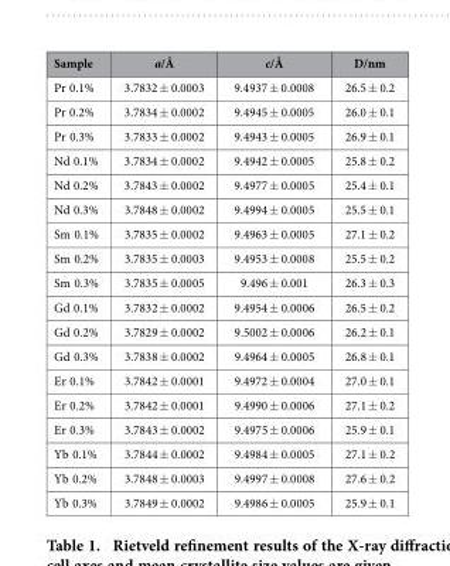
<table><thead><tr><td>Sample</td><td>a/Å</td><td>c/Å</td><td>D/nm</td></tr></thead><tbody><tr><td>Pr 0.1%</td><td>3.7832 ± 0.0003</td><td>9.4937 ± 0.0008</td><td>26.5 ± 0.2</td></tr><tr><td>Pr 0.2%</td><td>3.7834 ± 0.0002</td><td>9.4945 ± 0.0005</td><td>26.0 ± 0.1</td></tr><tr><td>Pr 0.3%</td><td>3.7833 ± 0.0002</td><td>9.4943 ± 0.0005</td><td>26.9 ± 0.1</td></tr><tr><td>Nd 0.1%</td><td>3.7834 ± 0.0002</td><td>9.4942 ± 0.0005</td><td>25.8 ± 0.2</td></tr><tr><td>Nd 0.2%</td><td>3.7843 ± 0.0002</td><td>9.4977 ± 0.0005</td><td>25.4 ± 0.1</td></tr><tr><td>Nd 0.3%</td><td>3.7848 ± 0.0002</td><td>9.4994 ± 0.0005</td><td>25.5 ± 0.1</td></tr><tr><td>Sm 0.1%</td><td>3.7835 ± 0.0002</td><td>9.4963 ± 0.0005</td><td>27.1 ± 0.2</td></tr><tr><td>Sm 0.2%</td><td>3.7835 ± 0.0003</td><td>9.4953 ± 0.0008</td><td>25.5 ± 0.2</td></tr><tr><td>Sm 0.3%</td><td>3.7835 ± 0.0005</td><td>9.496 ± 0.001</td><td>26.3 ± 0.3</td></tr><tr><td>Gd 0.1%</td><td>3.7832 ± 0.0002</td><td>9.4954 ± 0.0006</td><td>26.5 ± 0.2</td></tr><tr><td>Gd 0.2%</td><td>3.7829 ± 0.0002</td><td>9.5002 ± 0.0006</td><td>26.2 ± 0.1</td></tr><tr><td>Gd 0.3%</td><td>3.7838 ± 0.0002</td><td>9.4964 ± 0.0005</td><td>26.8 ± 0.1</td></tr><tr><td>Er 0.1%</td><td>3.7842 ± 0.0001</td><td>9.4972 ± 0.0004</td><td>27.0 ± 0.1</td></tr><tr><td>Er 0.2%</td><td>3.7842 ± 0.0001</td><td>9.4990 ± 0.0006</td><td>27.1 ± 0.2</td></tr><tr><td>Er 0.3%</td><td>3.7843 ± 0.0002</td><td>9.4975 ± 0.0006</td><td>25.9 ± 0.1</td></tr><tr><td>Yb 0.1%</td><td>3.7844 ± 0.0002</td><td>9.4984 ± 0.0005</td><td>27.1 ± 0.2</td></tr><tr><td>Yb 0.2%</td><td>3.7848 ± 0.0003</td><td>9.4997 ± 0.0008</td><td>27.6 ± 0.2</td></tr><tr><td>Yb 0.3%</td><td>3.7849 ± 0.0002</td><td>9.4986 ± 0.0005</td><td>25.9 ± 0.1</td></tr></tbody></table>